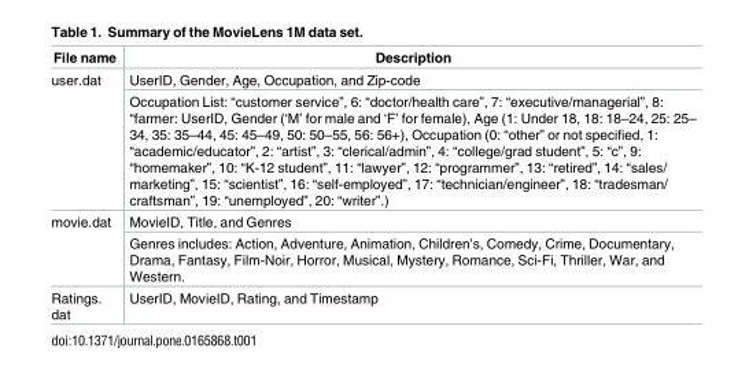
<table><thead><tr><td>File name</td><td>Description</td></tr></thead><tbody><tr><td rowspan="2">user.dat</td><td>UserID, Gender, Age, Occupation, and Zip-code</td></tr><tr><td>Occupation List: “customer service”, 6: “doctor/health care”, 7: “executive/managerial”, 8: “farmer: UserID, Gender (‘M’ for male and ‘F’ for female), Age (1: Under 18, 18: 18–24, 25: 25– 34, 35: 35–44, 45: 45–49, 50: 50–55, 56: 56+), Occupation (0: “other” or not specified, 1: “academic/educator”, 2: “artist”, 3: “clerical/admin”, 4: “college/grad student”, 5: “c”, 9: “homemaker”, 10: “K-12 student”, 11: “lawyer”, 12: “programmer”, 13: “retired”, 14: “sales/ marketing”, 15: “scientist”, 16: “self-employed”, 17: “technician/engineer”, 18: “tradesman/ craftsman”, 19: “unemployed”, 20: “writer”.)</td></tr><tr><td rowspan="2">movie.dat</td><td>MovieID, Title, and Genres</td></tr><tr><td>Genres includes: Action, Adventure, Animation, Children’s, Comedy, Crime, Documentary, Drama, Fantasy, Film-Noir, Horror, Musical, Mystery, Romance, Sci-Fi, Thriller, War, and Western.</td></tr><tr><td>Ratings. dat</td><td>UserID, MovieID, Rating, and Timestamp</td></tr></tbody></table>